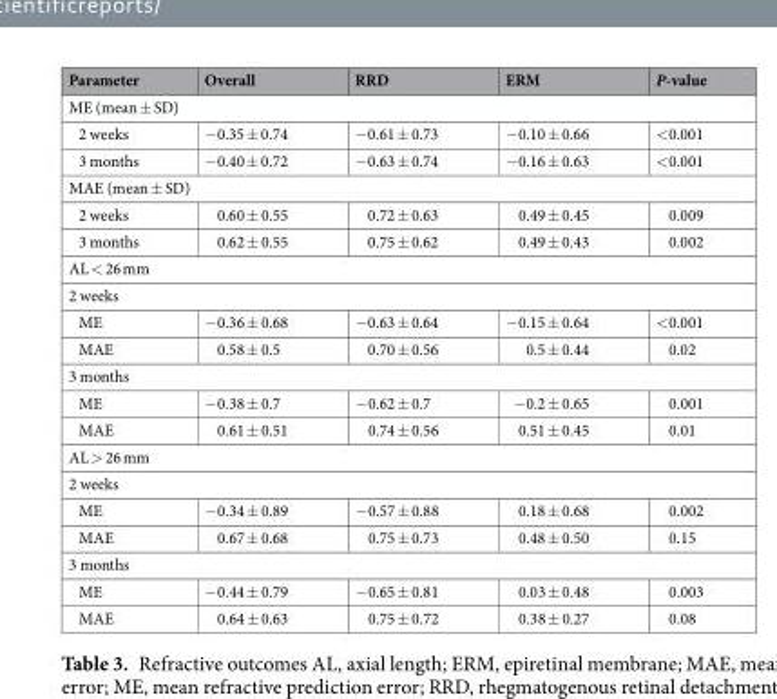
<table><thead><tr><td>Parameter</td><td>Overall</td><td>RRD</td><td>ERM</td><td>P-value</td></tr></thead><tbody><tr><td colspan="5">ME (mean ± SD)</td></tr><tr><td>2 weeks</td><td>−0.35 ± 0.74</td><td>−0.61 ± 0.73</td><td>−0.10 ± 0.66</td><td>&lt;0.001</td></tr><tr><td>3 months</td><td>−0.40 ± 0.72</td><td>−0.63 ± 0.74</td><td>−0.16 ± 0.63</td><td>&lt;0.001</td></tr><tr><td colspan="5">MAE (mean ± SD)</td></tr><tr><td>2 weeks</td><td>0.60 ± 0.55</td><td>0.72 ± 0.63</td><td>0.49 ± 0.45</td><td>0.009</td></tr><tr><td>3 months</td><td>0.62 ± 0.55</td><td>0.75 ± 0.62</td><td>0.49 ± 0.43</td><td>0.002</td></tr><tr><td colspan="5">AL &lt; 26 mm</td></tr><tr><td colspan="5">2 weeks</td></tr><tr><td>ME</td><td>−0.36 ± 0.68</td><td>−0.63 ± 0.64</td><td>−0.15 ± 0.64</td><td>&lt;0.001</td></tr><tr><td>MAE</td><td>0.58 ± 0.5</td><td>0.70 ± 0.56</td><td>0.5 ± 0.44</td><td>0.02</td></tr><tr><td colspan="5">3 months</td></tr><tr><td>ME</td><td>−0.38 ± 0.7</td><td>−0.62 ± 0.7</td><td>−0.2 ± 0.65</td><td>0.001</td></tr><tr><td>MAE</td><td>0.61 ± 0.51</td><td>0.74 ± 0.56</td><td>0.51 ± 0.45</td><td>0.01</td></tr><tr><td colspan="5">AL &gt; 26 mm</td></tr><tr><td colspan="5">2 weeks</td></tr><tr><td>ME</td><td>−0.34 ± 0.89</td><td>−0.57 ± 0.88</td><td>0.18 ± 0.68</td><td>0.002</td></tr><tr><td>MAE</td><td>0.67 ± 0.68</td><td>0.75 ± 0.73</td><td>0.48 ± 0.50</td><td>0.15</td></tr><tr><td colspan="5">3 months</td></tr><tr><td>ME</td><td>−0.44 ± 0.79</td><td>−0.65 ± 0.81</td><td>0.03 ± 0.48</td><td>0.003</td></tr><tr><td>MAE</td><td>0.64 ± 0.63</td><td>0.75 ± 0.72</td><td>0.38 ± 0.27</td><td>0.08</td></tr></tbody></table>